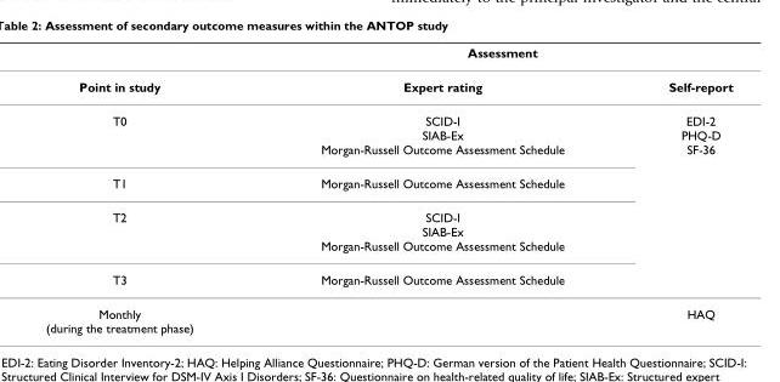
<table><thead><tr><td rowspan="2">Point in study</td><td colspan="2">Assessment</td></tr><tr><td>Expert rating</td><td>Self-report</td></tr></thead><tbody><tr><td>T0</td><td>SCID-I SIAB-Ex Morgan-Russell Outcome Assessment Schedule</td><td>EDI-2 PHQ-D SF-36</td></tr><tr><td>T1</td><td>Morgan-Russell Outcome Assessment Schedule</td><td></td></tr><tr><td>T2</td><td>SCID-I SIAB-Ex Morgan-Russell Outcome Assessment Schedule</td><td></td></tr><tr><td>T3</td><td>Morgan-Russell Outcome Assessment Schedule</td><td></td></tr><tr><td>Monthly (during the treatment phase)</td><td></td><td>HAQ</td></tr></tbody></table>